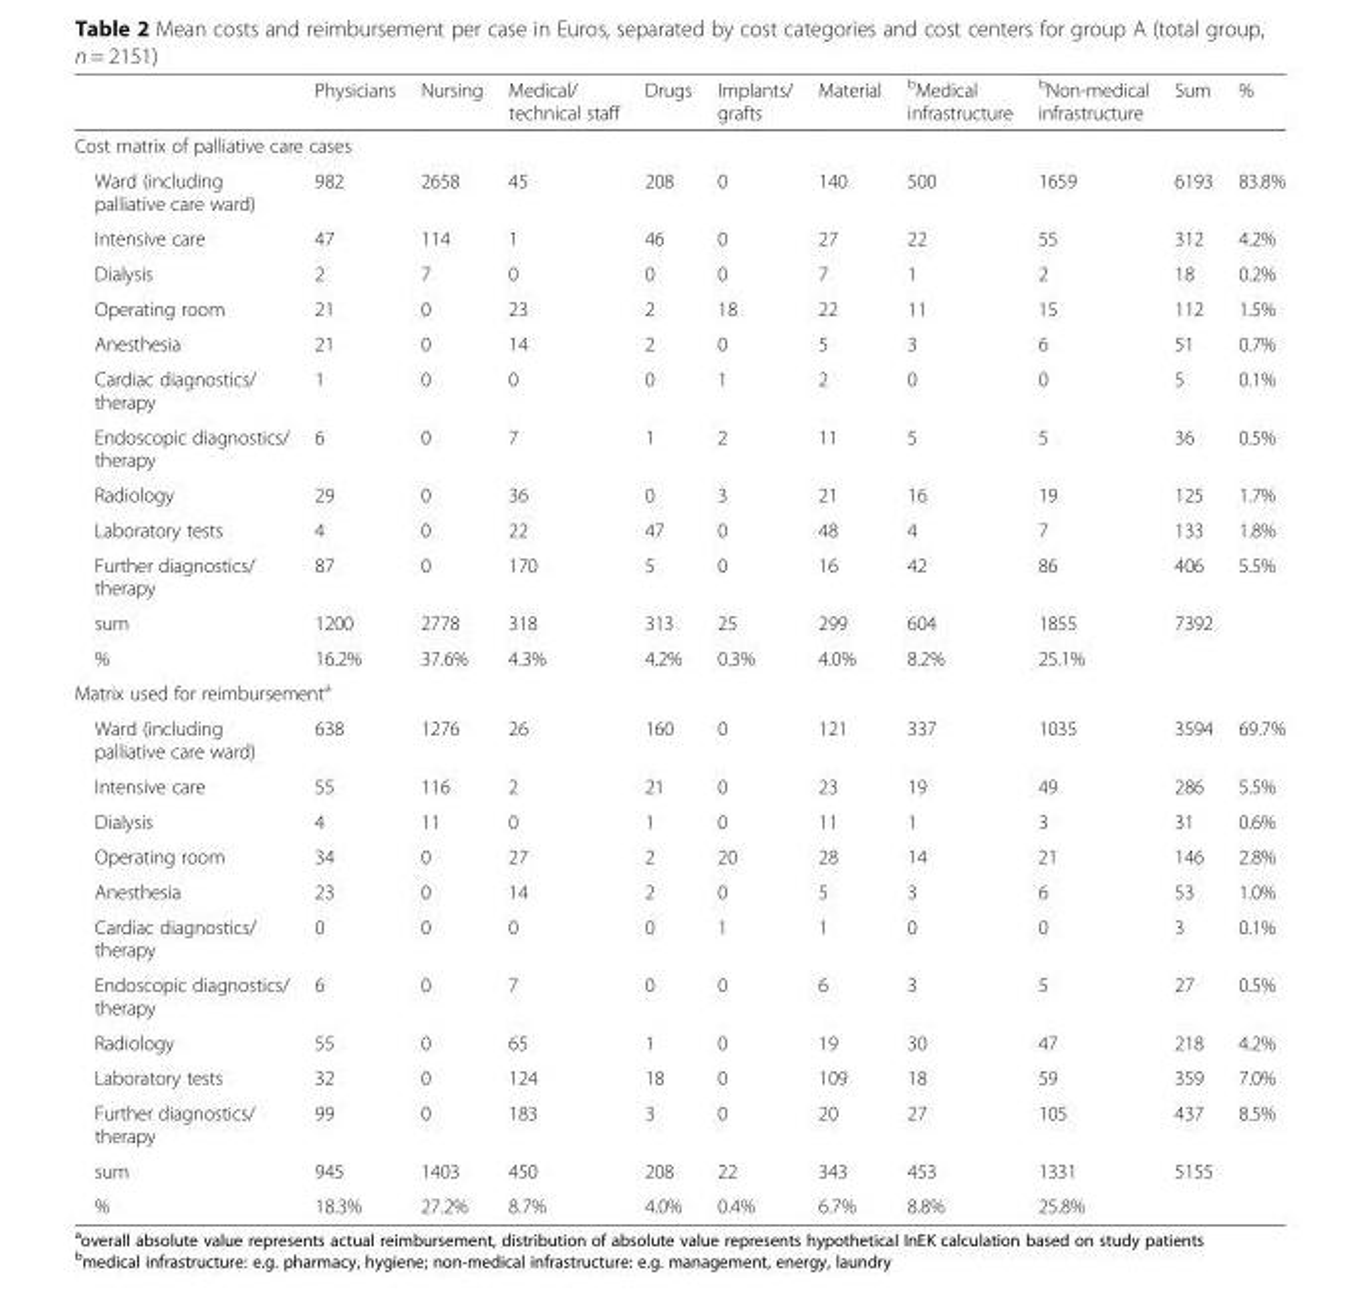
<table><thead><tr><td></td><td>Physicians</td><td>Nursing</td><td>Medical/ technical staff</td><td>Drugs</td><td>Implants/ grafts</td><td>Material</td><td><sup>b</sup>Medical infrastructure</td><td><sup>b</sup>Non-medical infrastructure</td><td>Sum</td><td>%</td></tr></thead><tbody><tr><td colspan="11">Cost matrix of palliative care cases</td></tr><tr><td>Ward (including palliative care ward)</td><td>982</td><td>2658</td><td>45</td><td>208</td><td>0</td><td>140</td><td>500</td><td>1659</td><td>6193</td><td>83.8%</td></tr><tr><td>Intensive care</td><td>47</td><td>114</td><td>1</td><td>46</td><td>0</td><td>27</td><td>22</td><td>55</td><td>312</td><td>4.2%</td></tr><tr><td>Dialysis</td><td>2</td><td>7</td><td>0</td><td>0</td><td>0</td><td>7</td><td>1</td><td>2</td><td>18</td><td>0.2%</td></tr><tr><td>Operating room</td><td>21</td><td>0</td><td>23</td><td>2</td><td>18</td><td>22</td><td>11</td><td>15</td><td>112</td><td>1.5%</td></tr><tr><td>Anesthesia</td><td>21</td><td>0</td><td>14</td><td>2</td><td>0</td><td>5</td><td>3</td><td>6</td><td>51</td><td>0.7%</td></tr><tr><td>Cardiac diagnostics/ therapy</td><td>1</td><td>0</td><td>0</td><td>0</td><td>1</td><td>2</td><td>0</td><td>0</td><td>5</td><td>0.1%</td></tr><tr><td>Endoscopic diagnostics/ therapy</td><td>6</td><td>0</td><td>7</td><td>1</td><td>2</td><td>11</td><td>5</td><td>5</td><td>36</td><td>0.5%</td></tr><tr><td>Radiology</td><td>29</td><td>0</td><td>36</td><td>0</td><td>3</td><td>21</td><td>16</td><td>19</td><td>125</td><td>1.7%</td></tr><tr><td>Laboratory tests</td><td>4</td><td>0</td><td>22</td><td>47</td><td>0</td><td>48</td><td>4</td><td>7</td><td>133</td><td>1.8%</td></tr><tr><td>Further diagnostics/ therapy</td><td>87</td><td>0</td><td>170</td><td>5</td><td>0</td><td>16</td><td>42</td><td>86</td><td>406</td><td>5.5%</td></tr><tr><td>sum</td><td>1200</td><td>2778</td><td>318</td><td>313</td><td>25</td><td>299</td><td>604</td><td>1855</td><td>7392</td><td></td></tr><tr><td>%</td><td>16.2%</td><td>37.6%</td><td>4.3%</td><td>4.2%</td><td>0.3%</td><td>4.0%</td><td>8.2%</td><td>25.1%</td><td></td><td></td></tr><tr><td colspan="11">Matrix used for reimbursement<sup>a</sup></td></tr><tr><td>Ward (including palliative care ward)</td><td>638</td><td>1276</td><td>26</td><td>160</td><td>0</td><td>121</td><td>337</td><td>1035</td><td>3594</td><td>69.7%</td></tr><tr><td>Intensive care</td><td>55</td><td>116</td><td>2</td><td>21</td><td>0</td><td>23</td><td>19</td><td>49</td><td>286</td><td>5.5%</td></tr><tr><td>Dialysis</td><td>4</td><td>11</td><td>0</td><td>1</td><td>0</td><td>11</td><td>1</td><td>3</td><td>31</td><td>0.6%</td></tr><tr><td>Operating room</td><td>34</td><td>0</td><td>27</td><td>2</td><td>20</td><td>28</td><td>14</td><td>21</td><td>146</td><td>2.8%</td></tr><tr><td>Anesthesia</td><td>23</td><td>0</td><td>14</td><td>2</td><td>0</td><td>5</td><td>3</td><td>6</td><td>53</td><td>1.0%</td></tr><tr><td>Cardiac diagnostics/ therapy</td><td>0</td><td>0</td><td>0</td><td>0</td><td>1</td><td>1</td><td>0</td><td>0</td><td>3</td><td>0.1%</td></tr><tr><td>Endoscopic diagnostics/ therapy</td><td>6</td><td>0</td><td>7</td><td>0</td><td>0</td><td>6</td><td>3</td><td>5</td><td>27</td><td>0.5%</td></tr><tr><td>Radiology</td><td>55</td><td>0</td><td>65</td><td>1</td><td>0</td><td>19</td><td>30</td><td>47</td><td>218</td><td>4.2%</td></tr><tr><td>Laboratory tests</td><td>32</td><td>0</td><td>124</td><td>18</td><td>0</td><td>109</td><td>18</td><td>59</td><td>359</td><td>7.0%</td></tr><tr><td>Further diagnostics/ therapy</td><td>99</td><td>0</td><td>183</td><td>3</td><td>0</td><td>20</td><td>27</td><td>105</td><td>437</td><td>8.5%</td></tr><tr><td>sum</td><td>945</td><td>1403</td><td>450</td><td>208</td><td>22</td><td>343</td><td>453</td><td>1331</td><td>5155</td><td></td></tr><tr><td>%</td><td>18.3%</td><td>27.2%</td><td>8.7%</td><td>4.0%</td><td>0.4%</td><td>6.7%</td><td>8.8%</td><td>25.8%</td><td></td><td></td></tr></tbody></table>